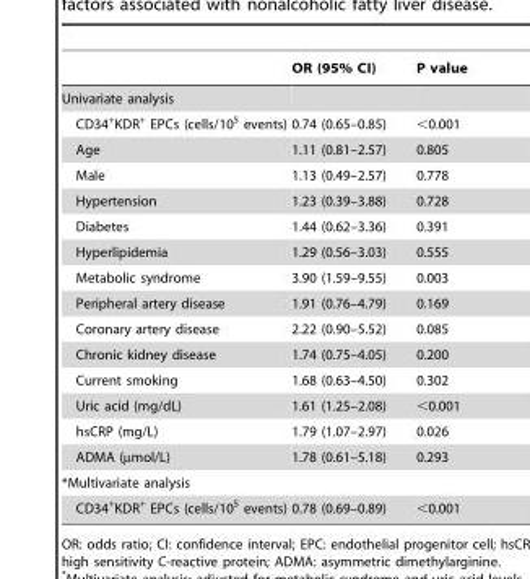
<table><thead><tr><td></td><td>OR (95% CI)</td><td>P value</td></tr></thead><tbody><tr><td colspan="3">Univariate analysis</td></tr><tr><td>CD34<sup>+</sup>KDR<sup>+</sup> EPCs (cells/10<sup>5</sup> events)</td><td>0.74 (0.65–0.85)</td><td>&lt;0.001</td></tr><tr><td>Age</td><td>1.11 (0.81–2.57)</td><td>0.805</td></tr><tr><td>Male</td><td>1.13 (0.49–2.57)</td><td>0.778</td></tr><tr><td>Hypertension</td><td>1.23 (0.39–3.88)</td><td>0.728</td></tr><tr><td>Diabetes</td><td>1.44 (0.62–3.36)</td><td>0.391</td></tr><tr><td>Hyperlipidemia</td><td>1.29 (0.56–3.03)</td><td>0.555</td></tr><tr><td>Metabolic syndrome</td><td>3.90 (1.59–9.55)</td><td>0.003</td></tr><tr><td>Peripheral artery disease</td><td>1.91 (0.76–4.79)</td><td>0.169</td></tr><tr><td>Coronary artery disease</td><td>2.22 (0.90–5.52)</td><td>0.085</td></tr><tr><td>Chronic kidney disease</td><td>1.74 (0.75–4.05)</td><td>0.200</td></tr><tr><td>Current smoking</td><td>1.68 (0.63–4.50)</td><td>0.302</td></tr><tr><td>Uric acid (mg/dL)</td><td>1.61 (1.25–2.08)</td><td>&lt;0.001</td></tr><tr><td>hsCRP (mg/L)</td><td>1.79 (1.07–2.97)</td><td>0.026</td></tr><tr><td>ADMA (µmol/L)</td><td>1.78 (0.61–5.18)</td><td>0.293</td></tr><tr><td colspan="3">*Multivariate analysis</td></tr><tr><td>CD34<sup>+</sup>KDR<sup>+</sup> EPCs (cells/10<sup>5</sup> events)</td><td>0.78 (0.69–0.89)</td><td>&lt;0.001</td></tr></tbody></table>